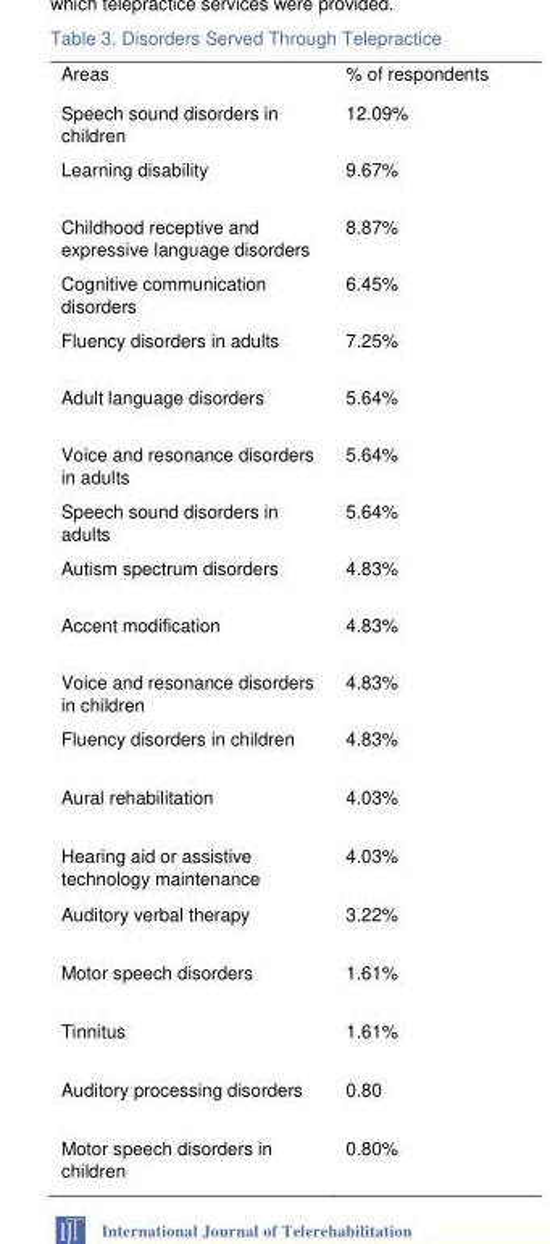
<table><thead><tr><td>Areas</td><td>% of respondents</td></tr></thead><tbody><tr><td>Speech sound disorders in children</td><td>12.09%</td></tr><tr><td>Learning disability</td><td>9.67%</td></tr><tr><td>Childhood receptive and expressive language disorders</td><td>8.87%</td></tr><tr><td>Cognitive communication disorders</td><td>6.45%</td></tr><tr><td>Fluency disorders in adults</td><td>7.25%</td></tr><tr><td>Adult language disorders</td><td>5.64%</td></tr><tr><td>Voice and resonance disorders in adults</td><td>5.64%</td></tr><tr><td>Speech sound disorders in adults</td><td>5.64%</td></tr><tr><td>Autism spectrum disorders</td><td>4.83%</td></tr><tr><td>Accent modification</td><td>4.83%</td></tr><tr><td>Voice and resonance disorders in children</td><td>4.83%</td></tr><tr><td>Fluency disorders in children</td><td>4.83%</td></tr><tr><td>Aural rehabilitation</td><td>4.03%</td></tr><tr><td>Hearing aid or assistive technology maintenance</td><td>4.03%</td></tr><tr><td>Auditory verbal therapy</td><td>3.22%</td></tr><tr><td>Motor speech disorders</td><td>1.61%</td></tr><tr><td>Tinnitus</td><td>1.61%</td></tr><tr><td>Auditory processing disorders</td><td>0.80</td></tr><tr><td>Motor speech disorders in children</td><td>0.80%</td></tr></tbody></table>